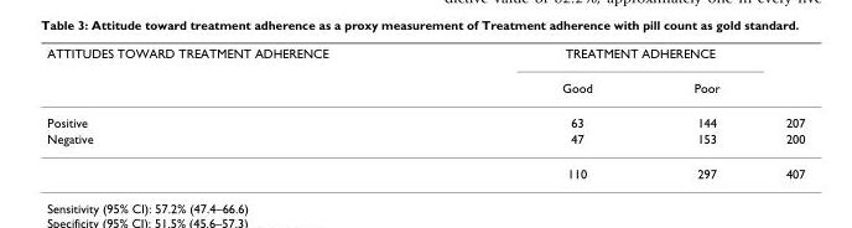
<table><thead><tr><td rowspan="2">ATTITUDES TOWARD TREATMENT ADHERENCE</td><td colspan="2">TREATMENT ADHERENCE</td><td rowspan="2"></td></tr><tr><td>Good</td><td>Poor</td></tr></thead><tbody><tr><td>Positive</td><td>63</td><td>144</td><td>207</td></tr><tr><td rowspan="2">Negative</td><td>47</td><td>153</td><td>200</td></tr><tr><td>110</td><td>297</td><td>407</td></tr></tbody></table>